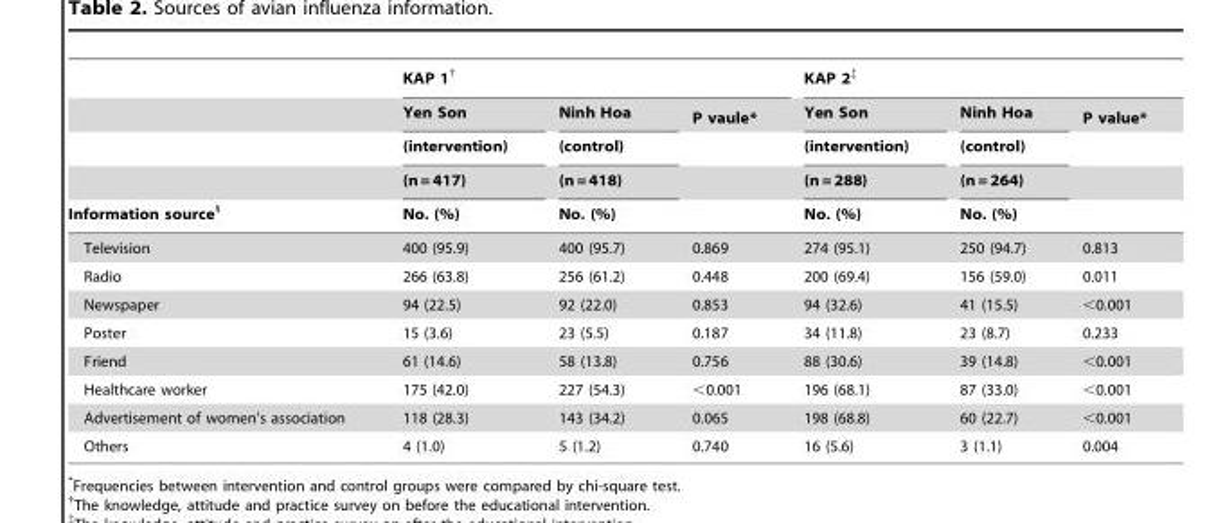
<table><thead><tr><td rowspan="5">Information source§</td><td colspan="3">KAP 1†</td><td colspan="3">KAP 2‡</td></tr><tr><td rowspan="4">Yen Son (intervention) (n = 417) No. (%)</td><td rowspan="4">Ninh Hoa (control) (n = 418) No. (%)</td><td rowspan="4">P vaule*</td><td rowspan="4">Yen Son (intervention) (n = 288) No. (%)</td><td rowspan="4">Ninh Hoa (control) (n = 264) No. (%)</td><td rowspan="4">P value*</td></tr><tr></tr><tr></tr><tr></tr></thead><tbody><tr><td>Television</td><td>400 (95.9)</td><td>400 (95.7)</td><td>0.869</td><td>274 (95.1)</td><td>250 (94.7)</td><td>0.813</td></tr><tr><td>Radio</td><td>266 (63.8)</td><td>256 (61.2)</td><td>0.448</td><td>200 (69.4)</td><td>156 (59.0)</td><td>0.011</td></tr><tr><td>Newspaper</td><td>94 (22.5)</td><td>92 (22.0)</td><td>0.853</td><td>94 (32.6)</td><td>41 (15.5)</td><td>&lt;0.001</td></tr><tr><td>Poster</td><td>15 (3.6)</td><td>23 (5.5)</td><td>0.187</td><td>34 (11.8)</td><td>23 (8.7)</td><td>0.233</td></tr><tr><td>Friend</td><td>61 (14.6)</td><td>58 (13.8)</td><td>0.756</td><td>88 (30.6)</td><td>39 (14.8)</td><td>&lt;0.001</td></tr><tr><td>Healthcare worker</td><td>175 (42.0)</td><td>227 (54.3)</td><td>&lt;0.001</td><td>196 (68.1)</td><td>87 (33.0)</td><td>&lt;0.001</td></tr><tr><td>Advertisement of women’s association</td><td>118 (28.3)</td><td>143 (34.2)</td><td>0.065</td><td>198 (68.8)</td><td>60 (22.7)</td><td>&lt;0.001</td></tr><tr><td>Others</td><td>4 (1.0)</td><td>5 (1.2)</td><td>0.740</td><td>16 (5.6)</td><td>3 (1.1)</td><td>0.004</td></tr></tbody></table>